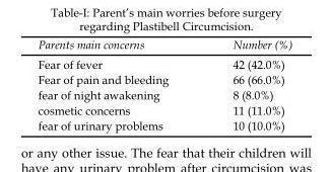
<table><thead><tr><td>Parents main concerns</td><td>Number (%)</td></tr></thead><tbody><tr><td>Fear of fever</td><td>42 (42.0%)</td></tr><tr><td>Fear of pain and bleeding</td><td>66 (66.0%)</td></tr><tr><td>fear of night awakening</td><td>8 (8.0%)</td></tr><tr><td>cosmetic concerns</td><td>11 (11.0%)</td></tr><tr><td>fear of urinary problems</td><td>10 (10.0%)</td></tr></tbody></table>